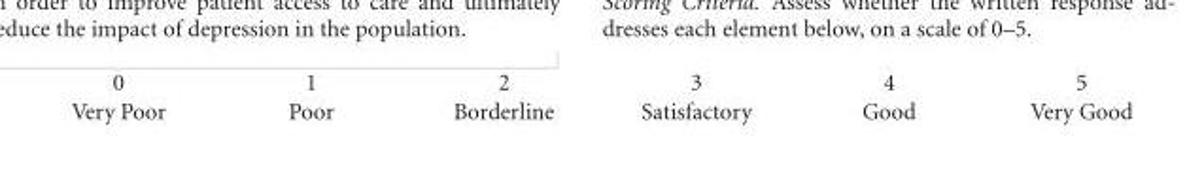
<table><tbody><tr><td>0</td><td>1</td><td>2</td><td>3</td><td>4</td><td>5</td></tr><tr><td>Very Poor</td><td>Poor</td><td>Borderline</td><td>Satisfactory</td><td>Good</td><td>Very Good</td></tr></tbody></table>